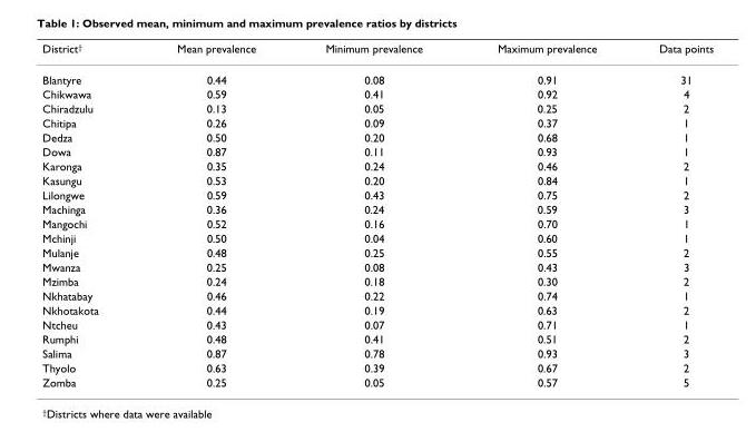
<table><thead><tr><td>District<sup>†</sup></td><td>Mean prevalence</td><td>Minimum prevalence</td><td>Maximum prevalence</td><td>Data points</td></tr></thead><tbody><tr><td>Blantyre</td><td>0.44</td><td>0.08</td><td>0.91</td><td>31</td></tr><tr><td>Chikwawa</td><td>0.59</td><td>0.41</td><td>0.92</td><td>4</td></tr><tr><td>Chiradzulu</td><td>0.13</td><td>0.05</td><td>0.25</td><td>2</td></tr><tr><td>Chitipa</td><td>0.26</td><td>0.09</td><td>0.37</td><td>1</td></tr><tr><td>Dedza</td><td>0.50</td><td>0.20</td><td>0.68</td><td>1</td></tr><tr><td>Dowa</td><td>0.87</td><td>0.11</td><td>0.93</td><td>1</td></tr><tr><td>Karonga</td><td>0.35</td><td>0.24</td><td>0.46</td><td>2</td></tr><tr><td>Kasungu</td><td>0.53</td><td>0.20</td><td>0.84</td><td>1</td></tr><tr><td>Lilongwe</td><td>0.59</td><td>0.43</td><td>0.75</td><td>2</td></tr><tr><td>Machinga</td><td>0.36</td><td>0.24</td><td>0.59</td><td>3</td></tr><tr><td>Mangochi</td><td>0.52</td><td>0.16</td><td>0.70</td><td>1</td></tr><tr><td>Mchinji</td><td>0.50</td><td>0.04</td><td>0.60</td><td>1</td></tr><tr><td>Mulanje</td><td>0.48</td><td>0.25</td><td>0.55</td><td>2</td></tr><tr><td>Mwanza</td><td>0.25</td><td>0.08</td><td>0.43</td><td>3</td></tr><tr><td>Mzimba</td><td>0.24</td><td>0.18</td><td>0.30</td><td>2</td></tr><tr><td>Nkhatabay</td><td>0.46</td><td>0.22</td><td>0.74</td><td>1</td></tr><tr><td>Nkhotakota</td><td>0.44</td><td>0.19</td><td>0.63</td><td>2</td></tr><tr><td>Ntcheu</td><td>0.43</td><td>0.07</td><td>0.71</td><td>1</td></tr><tr><td>Rumphi</td><td>0.48</td><td>0.41</td><td>0.51</td><td>2</td></tr><tr><td>Salima</td><td>0.87</td><td>0.78</td><td>0.93</td><td>3</td></tr><tr><td>Thyolo</td><td>0.63</td><td>0.39</td><td>0.67</td><td>2</td></tr><tr><td>Zomba</td><td>0.25</td><td>0.05</td><td>0.57</td><td>5</td></tr></tbody></table>